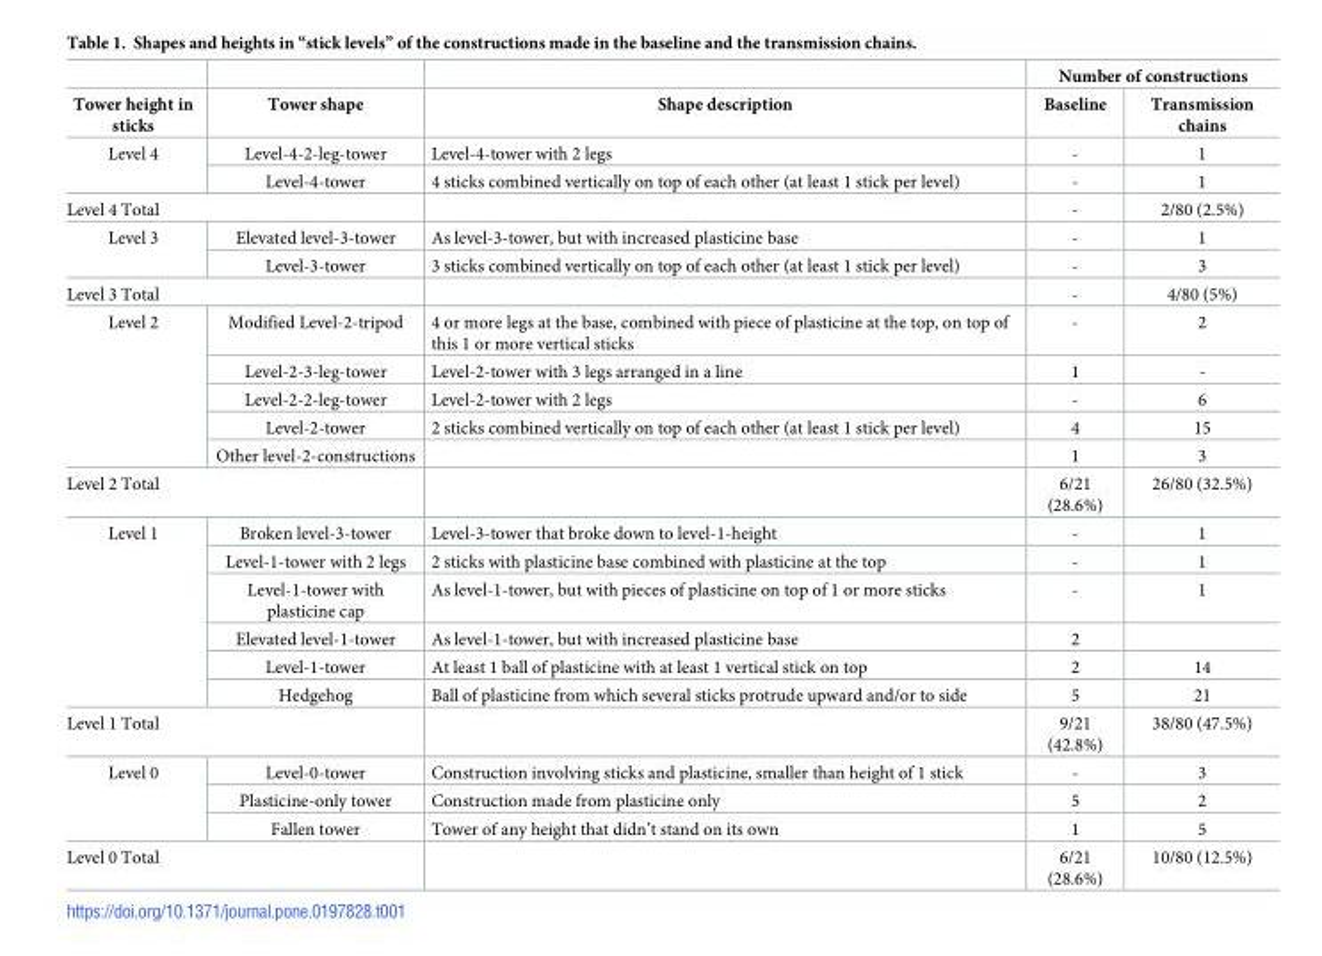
<table><thead><tr><td rowspan="2">Tower height in sticks</td><td rowspan="2">Tower shape</td><td rowspan="2">Shape description</td><td colspan="2">Number of constructions</td></tr><tr><td>Baseline</td><td>Transmission chains</td></tr></thead><tbody><tr><td rowspan="2">Level 4</td><td>Level-4-2-leg-tower</td><td>Level-4-tower with 2 legs</td><td>-</td><td>1</td></tr><tr><td>Level-4-tower</td><td>4 sticks combined vertically on top of each other (at least 1 stick per level)</td><td>-</td><td>1</td></tr><tr><td colspan="2">Level 4 Total</td><td></td><td>-</td><td>2/80 (2.5%)</td></tr><tr><td rowspan="2">Level 3</td><td>Elevated level-3-tower</td><td>As level-3-tower, but with increased plasticine base</td><td>-</td><td>1</td></tr><tr><td>Level-3-tower</td><td>3 sticks combined vertically on top of each other (at least 1 stick per level)</td><td>-</td><td>3</td></tr><tr><td colspan="2">Level 3 Total</td><td></td><td>-</td><td>4/80 (5%)</td></tr><tr><td rowspan="5">Level 2</td><td>Modified Level-2-tripod</td><td>4 or more legs at the base, combined with piece of plasticine at the top, on top of this 1 or more vertical sticks</td><td>-</td><td>2</td></tr><tr><td>Level-2-3-leg-tower</td><td>Level-2-tower with 3 legs arranged in a line</td><td>1</td><td>-</td></tr><tr><td>Level-2-2-leg-tower</td><td>Level-2-tower with 2 legs</td><td>-</td><td>6</td></tr><tr><td>Level-2-tower</td><td>2 sticks combined vertically on top of each other (at least 1 stick per level)</td><td>4</td><td>15</td></tr><tr><td>Other level-2-constructions</td><td></td><td>1</td><td>3</td></tr><tr><td colspan="2">Level 2 Total</td><td></td><td>6/21 (28.6%)</td><td>26/80 (32.5%)</td></tr><tr><td rowspan="6">Level 1</td><td>Broken level-3-tower</td><td>Level-3-tower that broke down to level-1-height</td><td>-</td><td>1</td></tr><tr><td>Level-1-tower with 2 legs</td><td>2 sticks with plasticine base combined with plasticine at the top</td><td>-</td><td>1</td></tr><tr><td>Level-1-tower with plasticine cap</td><td>As level-1-tower, but with pieces of plasticine on top of 1 or more sticks</td><td>-</td><td>1</td></tr><tr><td>Elevated level-1-tower</td><td>As level-1-tower, but with increased plasticine base</td><td>2</td><td></td></tr><tr><td>Level-1-tower</td><td>At least 1 ball of plasticine with at least 1 vertical stick on top</td><td>2</td><td>14</td></tr><tr><td>Hedgehog</td><td>Ball of plasticine from which several sticks protrude upward and/or to side</td><td>5</td><td>21</td></tr><tr><td colspan="2">Level 1 Total</td><td></td><td>9/21 (42.8%)</td><td>38/80 (47.5%)</td></tr><tr><td rowspan="3">Level 0</td><td>Level-0-tower</td><td>Construction involving sticks and plasticine, smaller than height of 1 stick</td><td>-</td><td>3</td></tr><tr><td>Plasticine-only tower</td><td>Construction made from plasticine only</td><td>5</td><td>2</td></tr><tr><td>Fallen tower</td><td>Tower of any height that didn’t stand on its own</td><td>1</td><td>5</td></tr><tr><td colspan="2">Level 0 Total</td><td></td><td>6/21 (28.6%)</td><td>10/80 (12.5%)</td></tr></tbody></table>